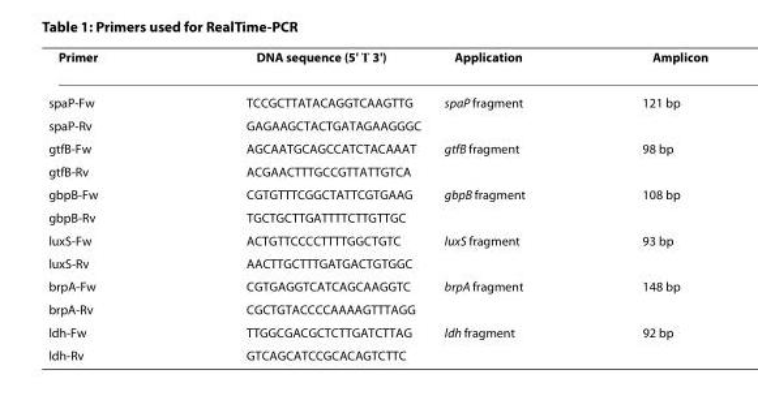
<table><thead><tr><td>Primer</td><td>DNA sequence (5&#x27; → 3&#x27;)</td><td>Application</td><td>Amplicon</td></tr></thead><tbody><tr><td>spaP-Fw</td><td>TCCGCTTATACAGGTCAAGTTG</td><td>spaP fragment</td><td>121 bp</td></tr><tr><td>spaP-Rv</td><td>GAGAAGCTACTGATAGAAGGGC</td><td></td><td></td></tr><tr><td>gtfB-Fw</td><td>AGCAATGCAGCCATCTACAAAT</td><td>gtfB fragment</td><td>98 bp</td></tr><tr><td>gtfB-Rv</td><td>ACGAACTTTGCCGTTATTGTCA</td><td></td><td></td></tr><tr><td>gbpB-Fw</td><td>CGTGTTTCGGCTATTCGTGAAG</td><td>gbpB fragment</td><td>108 bp</td></tr><tr><td>gbpB-Rv</td><td>TGCTGCTTGATTTTCTTGTTGC</td><td></td><td></td></tr><tr><td>luxS-Fw</td><td>ACTGTTCCCCTTTTGGCTGTC</td><td>luxS fragment</td><td>93 bp</td></tr><tr><td>luxS-Rv</td><td>AACTTGCTTTGATGACTGTGGC</td><td></td><td></td></tr><tr><td>brpA-Fw</td><td>CGTGAGGTCATCAGCAAGGTC</td><td>brpA fragment</td><td>148 bp</td></tr><tr><td>brpA-Rv</td><td>CGCTGTACCCCAAAAGTTTAGG</td><td></td><td></td></tr><tr><td>ldh-Fw</td><td>TTGGCGACGCTCTTGATCTTAG</td><td>ldh fragment</td><td>92 bp</td></tr><tr><td>ldh-Rv</td><td>GTCAGCATCCGCACAGTCTTC</td><td></td><td></td></tr></tbody></table>